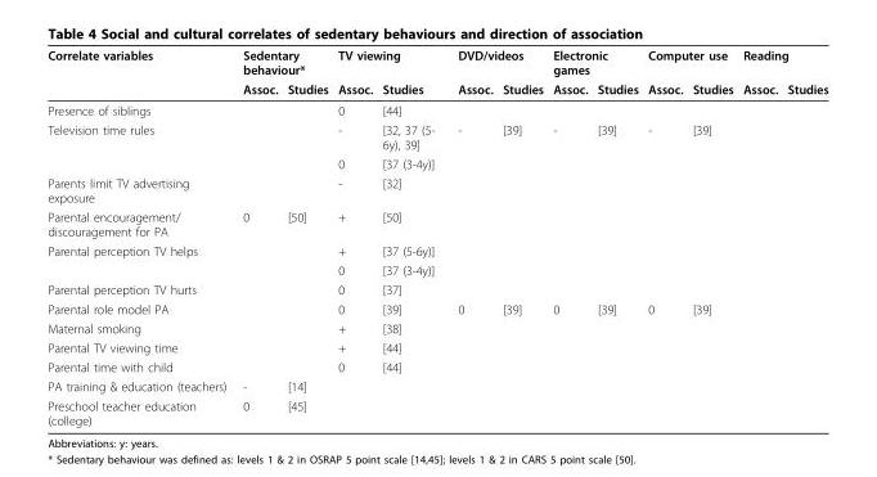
<table><thead><tr><td rowspan="2">Correlate variables</td><td colspan="2">Sedentary behaviour*</td><td colspan="2">TV viewing</td><td colspan="2">DVD/videos</td><td colspan="2">Electronic games</td><td colspan="2">Computer use</td><td colspan="2">Reading</td></tr><tr><td>Assoc.</td><td>Studies</td><td>Assoc.</td><td>Studies</td><td>Assoc.</td><td>Studies</td><td>Assoc.</td><td>Studies</td><td>Assoc.</td><td>Studies</td><td>Assoc.</td><td>Studies</td></tr></thead><tbody><tr><td>Presence of siblings</td><td></td><td></td><td>0</td><td>[44]</td><td></td><td></td><td></td><td></td><td></td><td></td><td></td><td></td></tr><tr><td rowspan="2">Television time rules</td><td></td><td></td><td>-</td><td>[32, 37 (5- 6y), 39]</td><td>-</td><td>[39]</td><td>-</td><td>[39]</td><td>-</td><td>[39]</td><td></td><td></td></tr><tr><td></td><td></td><td>0</td><td>[37 (3-4y)]</td><td></td><td></td><td></td><td></td><td></td><td></td><td></td><td></td></tr><tr><td>Parents limit TV advertising exposure</td><td></td><td></td><td>-</td><td>[32]</td><td></td><td></td><td></td><td></td><td></td><td></td><td></td><td></td></tr><tr><td>Parental encouragement/ discouragement for PA</td><td>0</td><td>[50]</td><td>+</td><td>[50]</td><td></td><td></td><td></td><td></td><td></td><td></td><td></td><td></td></tr><tr><td rowspan="2">Parental perception TV helps</td><td></td><td></td><td>+</td><td>[37 (5-6y)]</td><td></td><td></td><td></td><td></td><td></td><td></td><td></td><td></td></tr><tr><td></td><td></td><td>0</td><td>[37 (3-4y)]</td><td></td><td></td><td></td><td></td><td></td><td></td><td></td><td></td></tr><tr><td>Parental perception TV hurts</td><td></td><td></td><td>0</td><td>[37]</td><td></td><td></td><td></td><td></td><td></td><td></td><td></td><td></td></tr><tr><td>Parental role model PA</td><td></td><td></td><td>0</td><td>[39]</td><td>0</td><td>[39]</td><td>0</td><td>[39]</td><td>0</td><td>[39]</td><td></td><td></td></tr><tr><td>Maternal smoking</td><td></td><td></td><td>+</td><td>[38]</td><td></td><td></td><td></td><td></td><td></td><td></td><td></td><td></td></tr><tr><td>Parental TV viewing time</td><td></td><td></td><td>+</td><td>[44]</td><td></td><td></td><td></td><td></td><td></td><td></td><td></td><td></td></tr><tr><td>Parental time with child</td><td></td><td></td><td>0</td><td>[44]</td><td></td><td></td><td></td><td></td><td></td><td></td><td></td><td></td></tr><tr><td>PA training &amp; education (teachers)</td><td>-</td><td>[14]</td><td></td><td></td><td></td><td></td><td></td><td></td><td></td><td></td><td></td><td></td></tr><tr><td>Preschool teacher education (college)</td><td>0</td><td>[45]</td><td></td><td></td><td></td><td></td><td></td><td></td><td></td><td></td><td></td><td></td></tr></tbody></table>